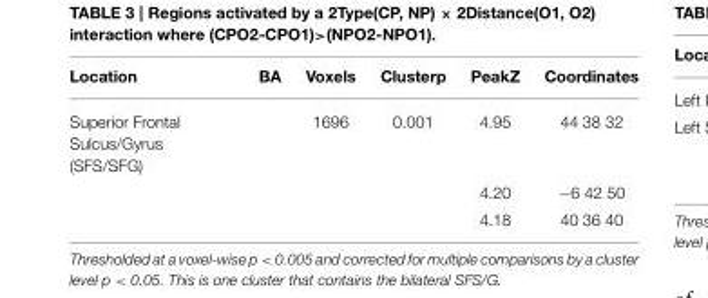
<table><thead><tr><td>Location</td><td>BA</td><td>Voxels</td><td>Clusterp</td><td>PeakZ</td><td>Coordinates</td></tr></thead><tbody><tr><td rowspan="3">Superior Frontal Sulcus/Gyrus (SFS/SFG)</td><td></td><td>1696</td><td>0.001</td><td>4.95</td><td>44 38 32</td></tr><tr><td></td><td></td><td></td><td>4.20</td><td>−6 42 50</td></tr><tr><td></td><td></td><td></td><td>4.18</td><td>40 36 40</td></tr></tbody></table>